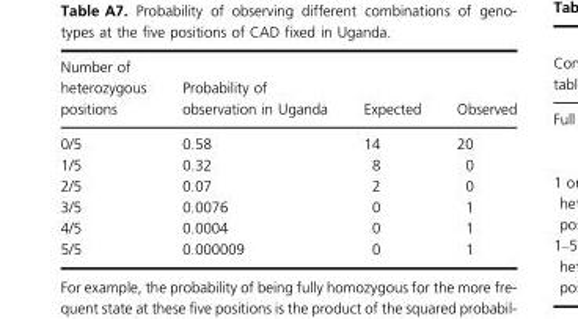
<table><thead><tr><td>Number of heterozygous positions</td><td>Probability of observation in Uganda</td><td>Expected</td><td>Observed</td></tr></thead><tbody><tr><td>0/5</td><td>0.58</td><td>14</td><td>20</td></tr><tr><td>1/5</td><td>0.32</td><td>8</td><td>0</td></tr><tr><td>2/5</td><td>0.07</td><td>2</td><td>0</td></tr><tr><td>3/5</td><td>0.0076</td><td>0</td><td>1</td></tr><tr><td>4/5</td><td>0.0004</td><td>0</td><td>1</td></tr><tr><td>5/5</td><td>0.000009</td><td>0</td><td>1</td></tr></tbody></table>